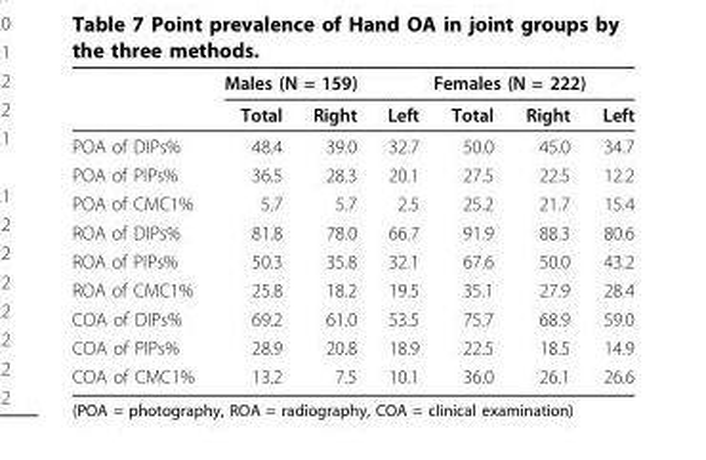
<table><thead><tr><td rowspan="2"></td><td colspan="3">Males (N = 159)</td><td colspan="3">Females (N = 222)</td></tr><tr><td>Total</td><td>Right</td><td>Left</td><td>Total</td><td>Right</td><td>Left</td></tr></thead><tbody><tr><td>POA of DIPs%</td><td>48.4</td><td>39.0</td><td>32.7</td><td>50.0</td><td>45.0</td><td>34.7</td></tr><tr><td>POA of PIPs%</td><td>36.5</td><td>28.3</td><td>20.1</td><td>27.5</td><td>22.5</td><td>12.2</td></tr><tr><td>POA of CMC1%</td><td>5.7</td><td>5.7</td><td>2.5</td><td>25.2</td><td>21.7</td><td>15.4</td></tr><tr><td>ROA of DIPs%</td><td>81.8</td><td>78.0</td><td>66.7</td><td>91.9</td><td>88.3</td><td>80.6</td></tr><tr><td>ROA of PIPs%</td><td>50.3</td><td>35.8</td><td>32.1</td><td>67.6</td><td>50.0</td><td>43.2</td></tr><tr><td>ROA of CMC1%</td><td>25.8</td><td>18.2</td><td>19.5</td><td>35.1</td><td>27.9</td><td>28.4</td></tr><tr><td>COA of DIPs%</td><td>69.2</td><td>61.0</td><td>53.5</td><td>75.7</td><td>68.9</td><td>59.0</td></tr><tr><td>COA of PIPs%</td><td>28.9</td><td>20.8</td><td>18.9</td><td>22.5</td><td>18.5</td><td>14.9</td></tr><tr><td>COA of CMC1%</td><td>13.2</td><td>7.5</td><td>10.1</td><td>36.0</td><td>26.1</td><td>26.6</td></tr></tbody></table>